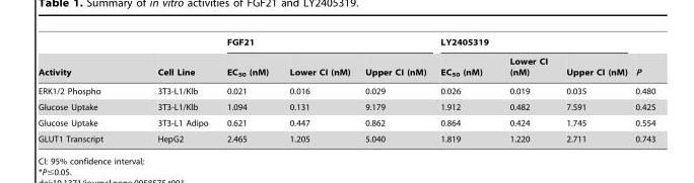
<table><thead><tr><td rowspan="2">Activity</td><td rowspan="2">Cell Line</td><td colspan="3">FGF21</td><td colspan="3">LY2405319</td><td rowspan="2">P</td></tr><tr><td>EC<sub>50</sub> (nM)</td><td>Lower CI (nM)</td><td>Upper CI (nM)</td><td>EC<sub>50</sub> (nM)</td><td>Lower CI (nM)</td><td>Upper CI (nM)</td></tr></thead><tbody><tr><td>ERK1/2 Phospho</td><td>3T3-L1/Klb</td><td>0.021</td><td>0.016</td><td>0.029</td><td>0.026</td><td>0.019</td><td>0.035</td><td>0.480</td></tr><tr><td>Glucose Uptake</td><td>3T3-L1/Klb</td><td>1.094</td><td>0.131</td><td>9.179</td><td>1.912</td><td>0.482</td><td>7.591</td><td>0.425</td></tr><tr><td>Glucose Uptake</td><td>3T3-L1 Adipo</td><td>0.621</td><td>0.447</td><td>0.862</td><td>0.864</td><td>0.424</td><td>1.745</td><td>0.554</td></tr><tr><td>GLUT1 Transcript</td><td>HepG2</td><td>2.465</td><td>1.205</td><td>5.040</td><td>1.819</td><td>1.220</td><td>2.711</td><td>0.743</td></tr></tbody></table>